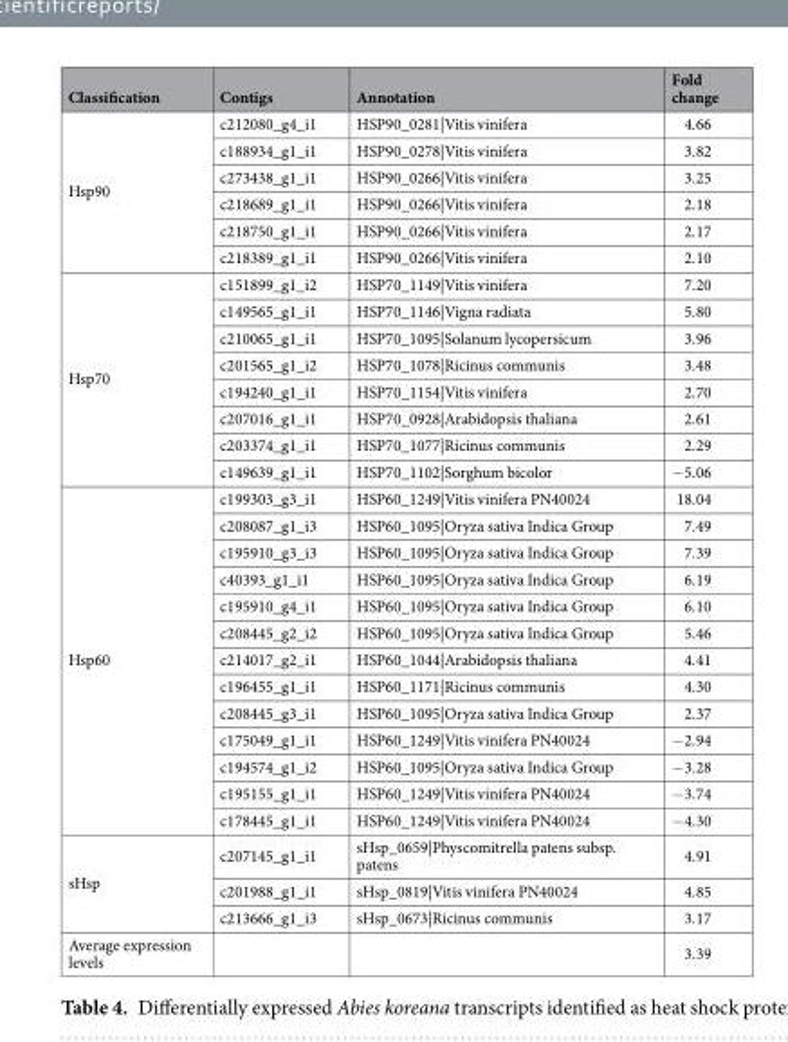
<table><thead><tr><td>Classification</td><td>Contigs</td><td>Annotation</td><td>Fold change</td></tr></thead><tbody><tr><td rowspan="6">Hsp90</td><td>c212080_g4_i1</td><td>HSP90_0281|Vitis vinifera</td><td>4.66</td></tr><tr><td>c188934_g1_i1</td><td>HSP90_0278|Vitis vinifera</td><td>3.82</td></tr><tr><td>c273438_g1_i1</td><td>HSP90_0266|Vitis vinifera</td><td>3.25</td></tr><tr><td>c218689_g1_i1</td><td>HSP90_0266|Vitis vinifera</td><td>2.18</td></tr><tr><td>c218750_g1_i1</td><td>HSP90_0266|Vitis vinifera</td><td>2.17</td></tr><tr><td>c218389_g1_i1</td><td>HSP90_0266|Vitis vinifera</td><td>2.10</td></tr><tr><td rowspan="8">Hsp70</td><td>c151899_g1_i2</td><td>HSP70_1149|Vitis vinifera</td><td>7.20</td></tr><tr><td>c149565_g1_i1</td><td>HSP70_1146|Vigna radiata</td><td>5.80</td></tr><tr><td>c210065_g1_i1</td><td>HSP70_1095|Solanum lycopersicum</td><td>3.96</td></tr><tr><td>c201565_g1_i2</td><td>HSP70_1078|Ricinus communis</td><td>3.48</td></tr><tr><td>c194240_g1_i1</td><td>HSP70_1154|Vitis vinifera</td><td>2.70</td></tr><tr><td>c207016_g1_i1</td><td>HSP70_0928|Arabidopsis thaliana</td><td>2.61</td></tr><tr><td>c203374_g1_i1</td><td>HSP70_1077|Ricinus communis</td><td>2.29</td></tr><tr><td>c149639_g1_i1</td><td>HSP70_1102|Sorghum bicolor</td><td>−5.06</td></tr><tr><td rowspan="13">Hsp60</td><td>c199303_g3_i1</td><td>HSP60_1249|Vitis vinifera PN40024</td><td>18.04</td></tr><tr><td>c208087_g1_i3</td><td>HSP60_1095|Oryza sativa Indica Group</td><td>7.49</td></tr><tr><td>c195910_g3_i3</td><td>HSP60_1095|Oryza sativa Indica Group</td><td>7.39</td></tr><tr><td>c40393_g1_i1</td><td>HSP60_1095|Oryza sativa Indica Group</td><td>6.19</td></tr><tr><td>c195910_g4_i1</td><td>HSP60_1095|Oryza sativa Indica Group</td><td>6.10</td></tr><tr><td>c208445_g2_i2</td><td>HSP60_1095|Oryza sativa Indica Group</td><td>5.46</td></tr><tr><td>c214017_g2_i1</td><td>HSP60_1044|Arabidopsis thaliana</td><td>4.41</td></tr><tr><td>c196455_g1_i1</td><td>HSP60_1171|Ricinus communis</td><td>4.30</td></tr><tr><td>c208445_g3_i1</td><td>HSP60_1095|Oryza sativa Indica Group</td><td>2.37</td></tr><tr><td>c175049_g1_i1</td><td>HSP60_1249|Vitis vinifera PN40024</td><td>−2.94</td></tr><tr><td>c194574_g1_i2</td><td>HSP60_1095|Oryza sativa Indica Group</td><td>−3.28</td></tr><tr><td>c195155_g1_i1</td><td>HSP60_1249|Vitis vinifera PN40024</td><td>−3.74</td></tr><tr><td>c178445_g1_i1</td><td>HSP60_1249|Vitis vinifera PN40024</td><td>−4.30</td></tr><tr><td rowspan="3">sHsp</td><td>c207145_g1_i1</td><td>sHsp_0659|Physcomitrella patens subsp. patens</td><td>4.91</td></tr><tr><td>c201988_g1_i1</td><td>sHsp_0819|Vitis vinifera PN40024</td><td>4.85</td></tr><tr><td>c213666_g1_i3</td><td>sHsp_0673|Ricinus communis</td><td>3.17</td></tr><tr><td>Average expression levels</td><td></td><td></td><td>3.39</td></tr></tbody></table>